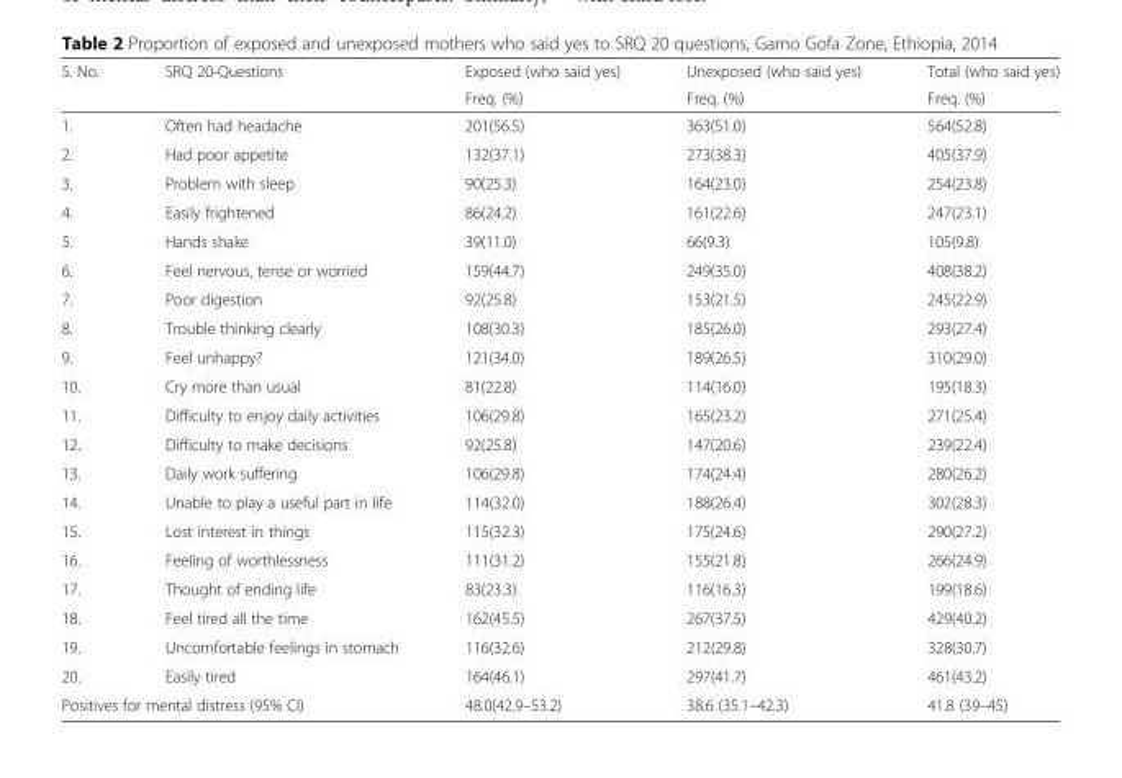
<table><thead><tr><td rowspan="2">S. No.</td><td rowspan="2">SRQ 20-Questions</td><td rowspan="2">Exposed (who said yes) Freq. (%)</td><td rowspan="2">Unexposed (who said yes) Freq. (%)</td><td rowspan="2">Total (who said yes) Freq. (%)</td></tr><tr></tr></thead><tbody><tr><td>1.</td><td>Often had headache</td><td>201(56.5)</td><td>363(51.0)</td><td>564(52.8)</td></tr><tr><td>2.</td><td>Had poor appetite</td><td>132(37.1)</td><td>273(38.3)</td><td>405(37.9)</td></tr><tr><td>3.</td><td>Problem with sleep</td><td>90(25.3)</td><td>164(23.0)</td><td>254(23.8)</td></tr><tr><td>4.</td><td>Easily frightened</td><td>86(24.2)</td><td>161(22.6)</td><td>247(23.1)</td></tr><tr><td>5.</td><td>Hands shake</td><td>39(11.0)</td><td>66(9.3)</td><td>105(9.8)</td></tr><tr><td>6.</td><td>Feel nervous, tense or worried</td><td>159(44.7)</td><td>249(35.0)</td><td>408(38.2)</td></tr><tr><td>7.</td><td>Poor digestion</td><td>92(25.8)</td><td>153(21.5)</td><td>245(22.9)</td></tr><tr><td>8.</td><td>Trouble thinking clearly</td><td>108(30.3)</td><td>185(26.0)</td><td>293(27.4)</td></tr><tr><td>9.</td><td>Feel unhappy?</td><td>121(34.0)</td><td>189(26.5)</td><td>310(29.0)</td></tr><tr><td>10.</td><td>Cry more than usual</td><td>81(22.8)</td><td>114(16.0)</td><td>195(18.3)</td></tr><tr><td>11.</td><td>Difficulty to enjoy daily activities</td><td>106(29.8)</td><td>165(23.2)</td><td>271(25.4)</td></tr><tr><td>12.</td><td>Difficulty to make decisions</td><td>92(25.8)</td><td>147(20.6)</td><td>239(22.4)</td></tr><tr><td>13.</td><td>Daily work suffering</td><td>106(29.8)</td><td>174(24.4)</td><td>280(26.2)</td></tr><tr><td>14.</td><td>Unable to play a useful part in life</td><td>114(32.0)</td><td>188(26.4)</td><td>302(28.3)</td></tr><tr><td>15.</td><td>Lost interest in things</td><td>115(32.3)</td><td>175(24.6)</td><td>290(27.2)</td></tr><tr><td>16.</td><td>Feeling of worthlessness</td><td>111(31.2)</td><td>155(21.8)</td><td>266(24.9)</td></tr><tr><td>17.</td><td>Thought of ending life</td><td>83(23.3)</td><td>116(16.3)</td><td>199(18.6)</td></tr><tr><td>18.</td><td>Feel tired all the time</td><td>162(45.5)</td><td>267(37.5)</td><td>429(40.2)</td></tr><tr><td>19.</td><td>Uncomfortable feelings in stomach</td><td>116(32.6)</td><td>212(29.8)</td><td>328(30.7)</td></tr><tr><td>20.</td><td>Easily tired</td><td>164(46.1)</td><td>297(41.7)</td><td>461(43.2)</td></tr><tr><td colspan="2">Positives for mental distress (95% CI)</td><td>48.0(42.9–53.2)</td><td>38.6 (35.1–42.3)</td><td>41.8 (39–45)</td></tr></tbody></table>